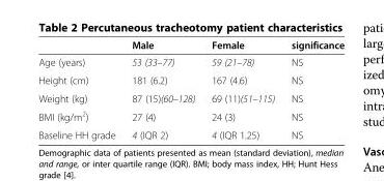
<table><thead><tr><td></td><td>Male</td><td>Female</td><td>significance</td></tr></thead><tbody><tr><td>Age (years)</td><td>53 (33–77)</td><td>59 (21–78)</td><td>NS</td></tr><tr><td>Height (cm)</td><td>181 (6.2)</td><td>167 (4.6)</td><td>NS</td></tr><tr><td>Weight (kg)</td><td>87 (15)(60–128)</td><td>69 (11)(51–115)</td><td>NS</td></tr><tr><td>BMI (kg/m<sup>2</sup>)</td><td>27 (4)</td><td>24 (3)</td><td>NS</td></tr><tr><td>Baseline HH grade</td><td>4 (IQR 2)</td><td>4 (IQR 1.25)</td><td>NS</td></tr></tbody></table>